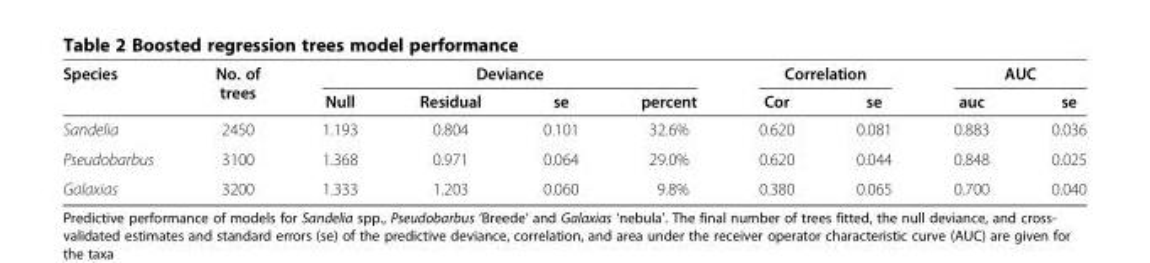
<table><thead><tr><td rowspan="2">Species</td><td rowspan="2">No. of trees</td><td colspan="4">Deviance</td><td colspan="2">Correlation</td><td colspan="2">AUC</td></tr><tr><td>Null</td><td>Residual</td><td>se</td><td>percent</td><td>Cor</td><td>se</td><td>auc</td><td>se</td></tr></thead><tbody><tr><td>Sandelia</td><td>2450</td><td>1.193</td><td>0.804</td><td>0.101</td><td>32.6%</td><td>0.620</td><td>0.081</td><td>0.883</td><td>0.036</td></tr><tr><td>Pseudobarbus</td><td>3100</td><td>1.368</td><td>0.971</td><td>0.064</td><td>29.0%</td><td>0.620</td><td>0.044</td><td>0.848</td><td>0.025</td></tr><tr><td>Galaxias</td><td>3200</td><td>1.333</td><td>1.203</td><td>0.060</td><td>9.8%</td><td>0.380</td><td>0.065</td><td>0.700</td><td>0.040</td></tr></tbody></table>